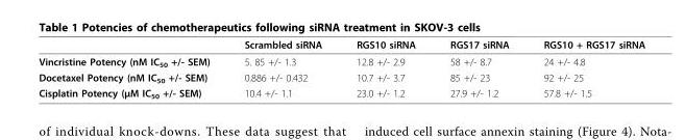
<table><thead><tr><td></td><td>Scrambled siRNA</td><td>RGS10 siRNA</td><td>RGS17 siRNA</td><td>RGS10 + RGS17 siRNA</td></tr></thead><tbody><tr><td>Vincristine Potency (nM IC<sub>50</sub> +/- SEM)</td><td>5. 85 +/- 1.3</td><td>12.8 +/- 2.9</td><td>58 +/- 8.7</td><td>24 +/- 4.8</td></tr><tr><td>Docetaxel Potency (nM IC<sub>50</sub> +/- SEM)</td><td>0.886 +/- 0.432</td><td>10.7 +/- 3.7</td><td>85 +/- 23</td><td>92 +/- 25</td></tr><tr><td>Cisplatin Potency (μM IC<sub>50</sub> +/- SEM)</td><td>10.4 +/- 1.1</td><td>23.0 +/- 1.2</td><td>27.9 +/- 1.2</td><td>57.8 +/- 1.5</td></tr></tbody></table>